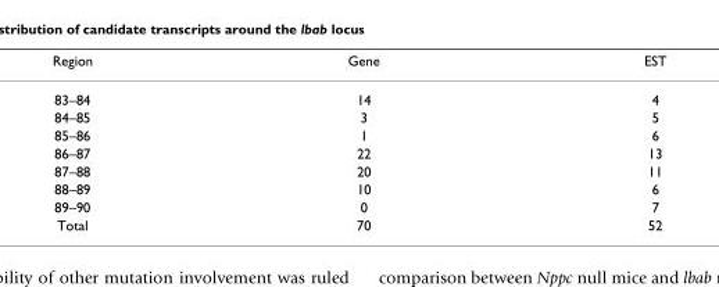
<table><thead><tr><td>Region</td><td>Gene</td><td>EST</td></tr></thead><tbody><tr><td>83–84</td><td>14</td><td>4</td></tr><tr><td>84–85</td><td>3</td><td>5</td></tr><tr><td>85–86</td><td>1</td><td>6</td></tr><tr><td>86–87</td><td>22</td><td>13</td></tr><tr><td>87–88</td><td>20</td><td>11</td></tr><tr><td>88–89</td><td>10</td><td>6</td></tr><tr><td>89–90</td><td>0</td><td>7</td></tr><tr><td>Total</td><td>70</td><td>52</td></tr></tbody></table>